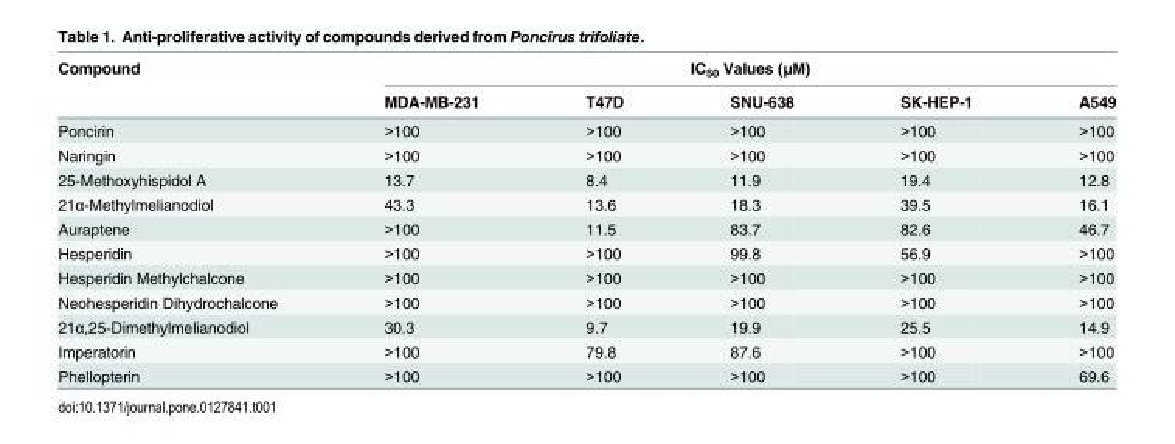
<table><thead><tr><td rowspan="2">Compound</td><td colspan="5">IC<sub>50</sub> Values (μM)</td></tr><tr><td>MDA-MB-231</td><td>T47D</td><td>SNU-638</td><td>SK-HEP-1</td><td>A549</td></tr></thead><tbody><tr><td>Poncirin</td><td>&gt;100</td><td>&gt;100</td><td>&gt;100</td><td>&gt;100</td><td>&gt;100</td></tr><tr><td>Naringin</td><td>&gt;100</td><td>&gt;100</td><td>&gt;100</td><td>&gt;100</td><td>&gt;100</td></tr><tr><td>25-Methoxyhispidol A</td><td>13.7</td><td>8.4</td><td>11.9</td><td>19.4</td><td>12.8</td></tr><tr><td>21α-Methylmelianodiol</td><td>43.3</td><td>13.6</td><td>18.3</td><td>39.5</td><td>16.1</td></tr><tr><td>Auraptene</td><td>&gt;100</td><td>11.5</td><td>83.7</td><td>82.6</td><td>46.7</td></tr><tr><td>Hesperidin</td><td>&gt;100</td><td>&gt;100</td><td>99.8</td><td>56.9</td><td>&gt;100</td></tr><tr><td>Hesperidin Methylchalcone</td><td>&gt;100</td><td>&gt;100</td><td>&gt;100</td><td>&gt;100</td><td>&gt;100</td></tr><tr><td>Neohesperidin Dihydrochalcone</td><td>&gt;100</td><td>&gt;100</td><td>&gt;100</td><td>&gt;100</td><td>&gt;100</td></tr><tr><td>21α,25-Dimethylmelianodiol</td><td>30.3</td><td>9.7</td><td>19.9</td><td>25.5</td><td>14.9</td></tr><tr><td>Imperatorin</td><td>&gt;100</td><td>79.8</td><td>87.6</td><td>&gt;100</td><td>&gt;100</td></tr><tr><td>Phellopterin</td><td>&gt;100</td><td>&gt;100</td><td>&gt;100</td><td>&gt;100</td><td>69.6</td></tr></tbody></table>